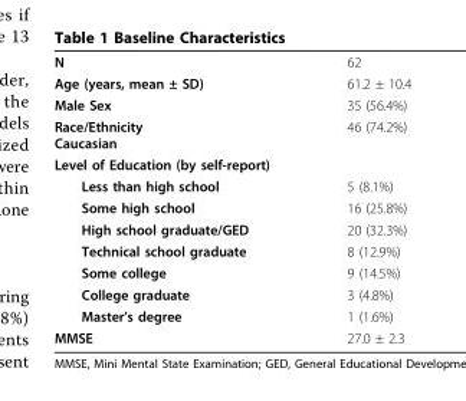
<table><tbody><tr><td>N</td><td>62</td></tr><tr><td>Age (years, mean ± SD)</td><td>61.2 ± 10.4</td></tr><tr><td>Male Sex</td><td>35 (56.4%)</td></tr><tr><td>Race/Ethnicity Caucasian</td><td>46 (74.2%)</td></tr><tr><td colspan="2">Level of Education (by self-report)</td></tr><tr><td>Less than high school</td><td>5 (8.1%)</td></tr><tr><td>Some high school</td><td>16 (25.8%)</td></tr><tr><td>High school graduate/GED</td><td>20 (32.3%)</td></tr><tr><td>Technical school graduate</td><td>8 (12.9%)</td></tr><tr><td>Some college</td><td>9 (14.5%)</td></tr><tr><td>College graduate</td><td>3 (4.8%)</td></tr><tr><td>Master’s degree</td><td>1 (1.6%)</td></tr><tr><td>MMSE</td><td>27.0 ± 2.3</td></tr></tbody></table>